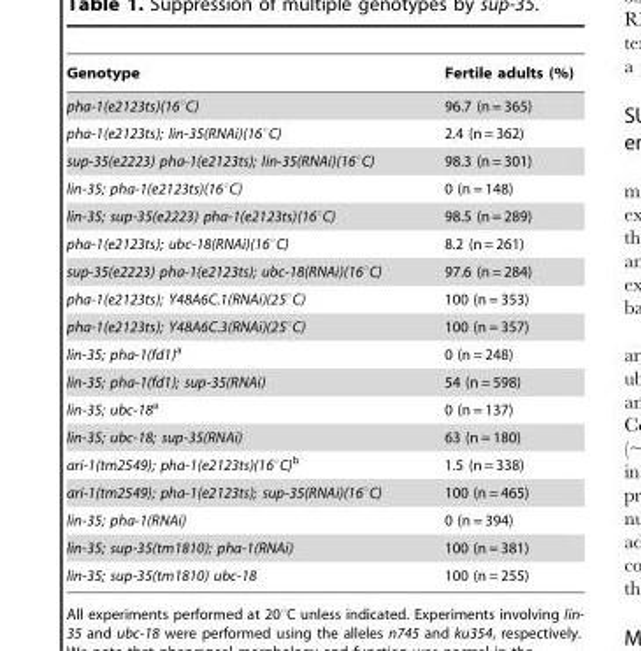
<table><thead><tr><td>Genotype</td><td>Fertile adults (%)</td></tr></thead><tbody><tr><td>pha-1(e2123ts)(16°C)</td><td>96.7 (n = 365)</td></tr><tr><td>pha-1(e2123ts); lin-35(RNAi)(16°C)</td><td>2.4 (n = 362)</td></tr><tr><td>sup-35(e2223) pha-1(e2123ts); lin-35(RNAi)(16°C)</td><td>98.3 (n = 301)</td></tr><tr><td>lin-35; pha-1(e2123ts)(16°C)</td><td>0 (n = 148)</td></tr><tr><td>lin-35; sup-35(e2223) pha-1(e2123ts)(16°C)</td><td>98.5 (n = 289)</td></tr><tr><td>pha-1(e2123ts); ubc-18(RNAi)(16°C)</td><td>8.2 (n = 261)</td></tr><tr><td>sup-35(e2223) pha-1(e2123ts); ubc-18(RNAi)(16°C)</td><td>97.6 (n = 284)</td></tr><tr><td>pha-1(e2123ts); Y48A6C.1(RNAi)(25°C)</td><td>100 (n = 353)</td></tr><tr><td>pha-1(e2123ts); Y48A6C.3(RNAi)(25°C)</td><td>100 (n = 357)</td></tr><tr><td>lin-35; pha-1(fd1)a</td><td>0 (n = 248)</td></tr><tr><td>lin-35; pha-1(fd1); sup-35(RNAi)</td><td>54 (n = 598)</td></tr><tr><td>lin-35; ubc-18a</td><td>0 (n = 137)</td></tr><tr><td>lin-35; ubc-18; sup-35(RNAi)</td><td>63 (n = 180)</td></tr><tr><td>ari-1(tm2549); pha-1(e2123ts)(16°C)b</td><td>1.5 (n = 338)</td></tr><tr><td>ari-1(tm2549); pha-1(e2123ts); sup-35(RNAi)(16°C)</td><td>100 (n = 465)</td></tr><tr><td>lin-35; pha-1(RNAi)</td><td>0 (n = 394)</td></tr><tr><td>lin-35; sup-35(tm1810); pha-1(RNAi)</td><td>100 (n = 381)</td></tr><tr><td>lin-35; sup-35(tm1810) ubc-18</td><td>100 (n = 255)</td></tr></tbody></table>